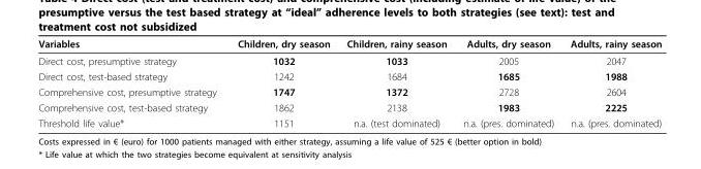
<table><thead><tr><td>Variables</td><td>Children, dry season</td><td>Children, rainy season</td><td>Adults, dry season</td><td>Adults, rainy season</td></tr></thead><tbody><tr><td>Direct cost, presumptive strategy</td><td>1032</td><td>1033</td><td>2005</td><td>2047</td></tr><tr><td>Direct cost, test-based strategy</td><td>1242</td><td>1684</td><td>1685</td><td>1988</td></tr><tr><td>Comprehensive cost, presumptive strategy</td><td>1747</td><td>1372</td><td>2728</td><td>2604</td></tr><tr><td>Comprehensive cost, test-based strategy</td><td>1862</td><td>2138</td><td>1983</td><td>2225</td></tr><tr><td>Threshold life value*</td><td>1151</td><td>n.a. (test dominated)</td><td>n.a. (pres. dominated)</td><td>n.a. (pres. dominated)</td></tr></tbody></table>